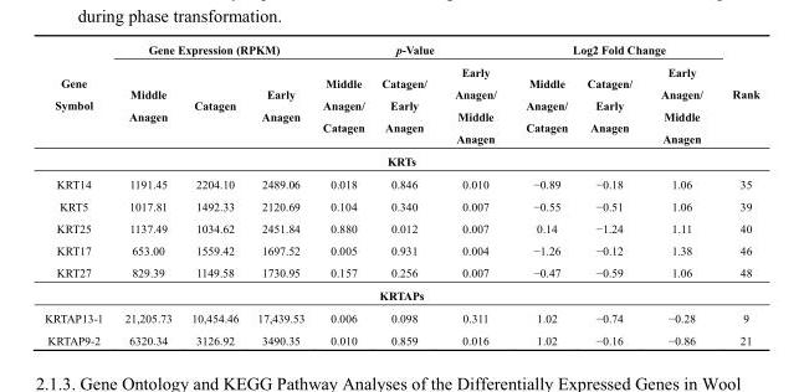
<table><thead><tr><td rowspan="2">Gene Symbol</td><td colspan="3">Gene Expression (RPKM)</td><td colspan="3">p-Value</td><td colspan="3">Log2 Fold Change</td><td rowspan="2">Rank</td></tr><tr><td>Middle Anagen</td><td>Catagen</td><td>Early Anagen</td><td>Middle Anagen/ Catagen</td><td>Catagen/ Early Anagen</td><td>Early Anagen/ Middle Anagen</td><td>Middle Anagen/ Catagen</td><td>Catagen/ Early Anagen</td><td>Early Anagen/ Middle Anagen</td></tr></thead><tbody><tr><td colspan="11">KRTs</td></tr><tr><td>KRT14</td><td>1191.45</td><td>2204.10</td><td>2489.06</td><td>0.018</td><td>0.846</td><td>0.010</td><td>−0.89</td><td>−0.18</td><td>1.06</td><td>35</td></tr><tr><td>KRT5</td><td>1017.81</td><td>1492.33</td><td>2120.69</td><td>0.104</td><td>0.340</td><td>0.007</td><td>−0.55</td><td>−0.51</td><td>1.06</td><td>39</td></tr><tr><td>KRT25</td><td>1137.49</td><td>1034.62</td><td>2451.84</td><td>0.880</td><td>0.012</td><td>0.007</td><td>0.14</td><td>−1.24</td><td>1.11</td><td>40</td></tr><tr><td>KRT17</td><td>653.00</td><td>1559.42</td><td>1697.52</td><td>0.005</td><td>0.931</td><td>0.004</td><td>−1.26</td><td>−0.12</td><td>1.38</td><td>46</td></tr><tr><td>KRT27</td><td>829.39</td><td>1149.58</td><td>1730.95</td><td>0.157</td><td>0.256</td><td>0.007</td><td>−0.47</td><td>−0.59</td><td>1.06</td><td>48</td></tr><tr><td colspan="11">KRTAPs</td></tr><tr><td>KRTAP13-1</td><td>21,205.73</td><td>10,454.46</td><td>17,439.53</td><td>0.006</td><td>0.098</td><td>0.311</td><td>1.02</td><td>−0.74</td><td>−0.28</td><td>9</td></tr><tr><td>KRTAP9-2</td><td>6320.34</td><td>3126.92</td><td>3490.35</td><td>0.010</td><td>0.859</td><td>0.016</td><td>1.02</td><td>−0.16</td><td>−0.86</td><td>21</td></tr></tbody></table>